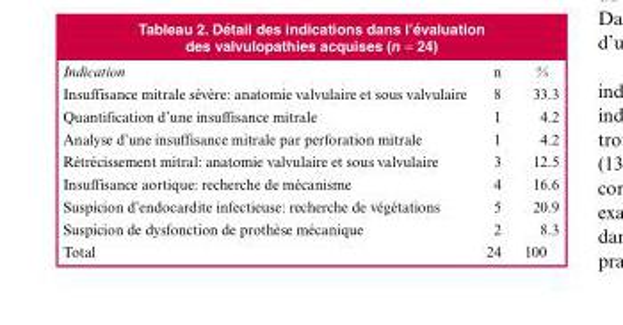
<table><thead><tr><td>Indication</td><td>n</td><td>%</td></tr></thead><tbody><tr><td>Insuffisance mitrale sévère: anatomie valvulaire et sous valvulaire</td><td>8</td><td>33.3</td></tr><tr><td>Quantification d’une insuffisance mitrale</td><td>1</td><td>4.2</td></tr><tr><td>Analyse d’une insuffisance mitrale par perforation mitrale</td><td>1</td><td>4.2</td></tr><tr><td>Rétrécissement mitral: anatomie valvulaire et sous valvulaire</td><td>3</td><td>12.5</td></tr><tr><td>Insuffisance aortique: recherche de mécanisme</td><td>4</td><td>16.6</td></tr><tr><td>Suspicion d’endocardite infectieuse: recherche de végétations</td><td>5</td><td>20.9</td></tr><tr><td>Suspicion de dysfonction de prothèse mécanique</td><td>2</td><td>8.3</td></tr><tr><td>Total</td><td>24</td><td>100</td></tr></tbody></table>